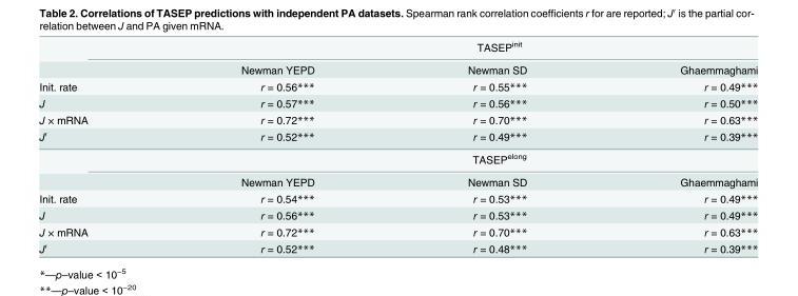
<table><thead><tr><td rowspan="2"></td><td colspan="3">TASEP<sup>init</sup></td></tr><tr><td>Newman YEPD</td><td>Newman SD</td><td>Ghaemmaghami</td></tr></thead><tbody><tr><td>Init. rate</td><td>r = 0.56***</td><td>r = 0.55***</td><td>r = 0.49***</td></tr><tr><td>J</td><td>r = 0.57***</td><td>r = 0.56***</td><td>r = 0.50***</td></tr><tr><td>J × mRNA</td><td>r = 0.72***</td><td>r = 0.70***</td><td>r = 0.63***</td></tr><tr><td rowspan="3">J′</td><td>r = 0.52***</td><td>r = 0.49***</td><td>r = 0.39***</td></tr><tr><td colspan="3">TASEP<sup>elong</sup></td></tr><tr><td>Newman YEPD</td><td>Newman SD</td><td>Ghaemmaghami</td></tr><tr><td>Init. rate</td><td>r = 0.54***</td><td>r = 0.53***</td><td>r = 0.49***</td></tr><tr><td>J</td><td>r = 0.56***</td><td>r = 0.53***</td><td>r = 0.49***</td></tr><tr><td>J × mRNA</td><td>r = 0.72***</td><td>r = 0.70***</td><td>r = 0.63***</td></tr><tr><td>J′</td><td>r = 0.52***</td><td>r = 0.48***</td><td>r = 0.39***</td></tr></tbody></table>